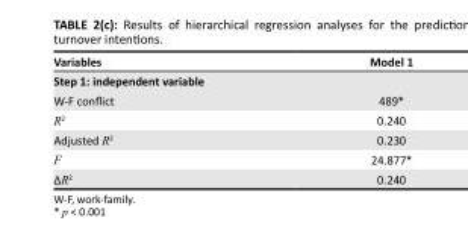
<table><thead><tr><td>Variables</td><td>Model 1</td></tr></thead><tbody><tr><td colspan="2">Step 1: independent variable</td></tr><tr><td>W-F conflict</td><td>489*</td></tr><tr><td>R<sup>2</sup></td><td>0.240</td></tr><tr><td>Adjusted R<sup>2</sup></td><td>0.230</td></tr><tr><td>F</td><td>24.877*</td></tr><tr><td>∆R<sup>2</sup></td><td>0.240</td></tr></tbody></table>